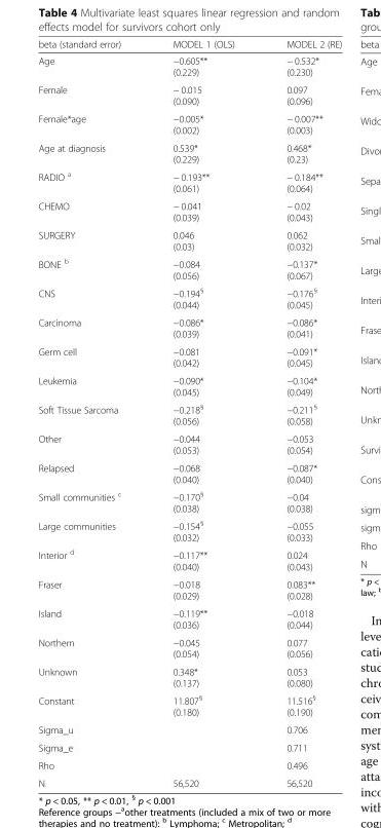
<table><thead><tr><td>beta (standard error)</td><td>MODEL 1 (OLS)</td><td>MODEL 2 (RE)</td></tr></thead><tbody><tr><td>Age</td><td>−0.605** (0.229)</td><td>− 0.532* (0.230)</td></tr><tr><td>Female</td><td>− 0.015 (0.090)</td><td>0.097 (0.096)</td></tr><tr><td>Female*age</td><td>−0.005* (0.002)</td><td>− 0.007** (0.003)</td></tr><tr><td>Age at diagnosis</td><td>0.539* (0.229)</td><td>0.468* (0.23)</td></tr><tr><td>RADIO <sup>a</sup></td><td>− 0.193** (0.061)</td><td>− 0.184** (0.064)</td></tr><tr><td>CHEMO</td><td>− 0.041 (0.039)</td><td>− 0.02 (0.043)</td></tr><tr><td>SURGERY</td><td>0.046 (0.03)</td><td>0.062 (0.032)</td></tr><tr><td>BONE <sup>b</sup></td><td>−0.084 (0.056)</td><td>−0.137* (0.067)</td></tr><tr><td>CNS</td><td>−0.194<sup>§</sup> (0.044)</td><td>−0.176<sup>§</sup> (0.045)</td></tr><tr><td>Carcinoma</td><td>−0.086* (0.039)</td><td>−0.086* (0.041)</td></tr><tr><td>Germ cell</td><td>−0.081 (0.042)</td><td>−0.091* (0.045)</td></tr><tr><td>Leukemia</td><td>−0.090* (0.045)</td><td>−0.104* (0.049)</td></tr><tr><td>Soft Tissue Sarcoma</td><td>−0.218<sup>§</sup> (0.056)</td><td>−0.211<sup>§</sup> (0.058)</td></tr><tr><td>Other</td><td>−0.044 (0.053)</td><td>−0.053 (0.054)</td></tr><tr><td>Relapsed</td><td>−0.068 (0.040)</td><td>−0.087* (0.040)</td></tr><tr><td>Small communities <sup>c</sup></td><td>−0.170<sup>§</sup> (0.038)</td><td>−0.04 (0.038)</td></tr><tr><td>Large communities</td><td>−0.154<sup>§</sup> (0.032)</td><td>−0.055 (0.033)</td></tr><tr><td>Interior <sup>d</sup></td><td>−0.117** (0.040)</td><td>0.024 (0.043)</td></tr><tr><td>Fraser</td><td>−0.018 (0.029)</td><td>0.083** (0.028)</td></tr><tr><td>Island</td><td>−0.119** (0.036)</td><td>−0.018 (0.044)</td></tr><tr><td>Northern</td><td>−0.045 (0.054)</td><td>0.077 (0.056)</td></tr><tr><td>Unknown</td><td>0.348* (0.137)</td><td>0.053 (0.080)</td></tr><tr><td>Constant</td><td>11.807<sup>§</sup> (0.180)</td><td>11.516<sup>§</sup> (0.190)</td></tr><tr><td>Sigma_u</td><td></td><td>0.706</td></tr><tr><td>Sigma_e</td><td></td><td>0.711</td></tr><tr><td>Rho</td><td></td><td>0.496</td></tr><tr><td>N</td><td>56,520</td><td>56,520</td></tr></tbody></table>